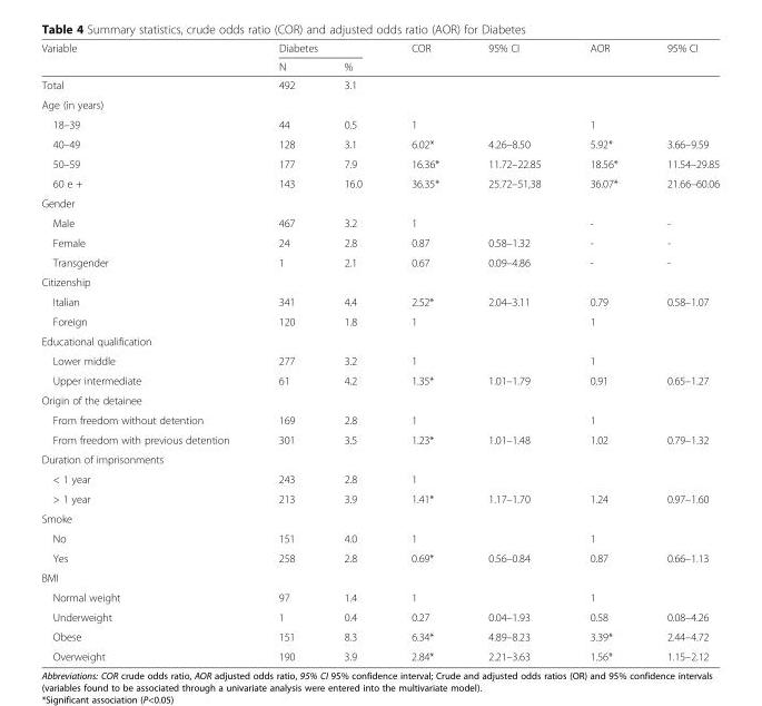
<table><thead><tr><td rowspan="2">Variable</td><td colspan="2">Diabetes</td><td rowspan="2">COR</td><td rowspan="2">95% CI</td><td rowspan="2">AOR</td><td rowspan="2">95% CI</td></tr><tr><td>N</td><td>%</td></tr></thead><tbody><tr><td>Total</td><td>492</td><td>3.1</td><td></td><td></td><td></td><td></td></tr><tr><td colspan="7">Age (in years)</td></tr><tr><td>18–39</td><td>44</td><td>0.5</td><td>1</td><td></td><td>1</td><td></td></tr><tr><td>40–49</td><td>128</td><td>3.1</td><td>6.02*</td><td>4.26–8.50</td><td>5.92*</td><td>3.66–9.59</td></tr><tr><td>50–59</td><td>177</td><td>7.9</td><td>16.36*</td><td>11.72–22.85</td><td>18.56*</td><td>11.54–29.85</td></tr><tr><td>60 e +</td><td>143</td><td>16.0</td><td>36.35*</td><td>25.72–51,38</td><td>36.07*</td><td>21.66–60.06</td></tr><tr><td colspan="7">Gender</td></tr><tr><td>Male</td><td>467</td><td>3.2</td><td>1</td><td></td><td>-</td><td>-</td></tr><tr><td>Female</td><td>24</td><td>2.8</td><td>0.87</td><td>0.58–1.32</td><td>-</td><td>-</td></tr><tr><td>Transgender</td><td>1</td><td>2.1</td><td>0.67</td><td>0.09–4.86</td><td>-</td><td>-</td></tr><tr><td colspan="7">Citizenship</td></tr><tr><td>Italian</td><td>341</td><td>4.4</td><td>2.52*</td><td>2.04–3.11</td><td>0.79</td><td>0.58–1.07</td></tr><tr><td>Foreign</td><td>120</td><td>1.8</td><td>1</td><td></td><td>1</td><td></td></tr><tr><td colspan="7">Educational qualification</td></tr><tr><td>Lower middle</td><td>277</td><td>3.2</td><td>1</td><td></td><td>1</td><td></td></tr><tr><td>Upper intermediate</td><td>61</td><td>4.2</td><td>1.35*</td><td>1.01–1.79</td><td>0.91</td><td>0.65–1.27</td></tr><tr><td colspan="7">Origin of the detainee</td></tr><tr><td>From freedom without detention</td><td>169</td><td>2.8</td><td>1</td><td></td><td>1</td><td></td></tr><tr><td>From freedom with previous detention</td><td>301</td><td>3.5</td><td>1.23*</td><td>1.01–1.48</td><td>1.02</td><td>0.79–1.32</td></tr><tr><td colspan="7">Duration of imprisonments</td></tr><tr><td>&lt; 1 year</td><td>243</td><td>2.8</td><td>1</td><td></td><td></td><td></td></tr><tr><td>&gt; 1 year</td><td>213</td><td>3.9</td><td>1.41*</td><td>1.17–1.70</td><td>1.24</td><td>0.97–1.60</td></tr><tr><td colspan="7">Smoke</td></tr><tr><td>No</td><td>151</td><td>4.0</td><td>1</td><td></td><td>1</td><td></td></tr><tr><td>Yes</td><td>258</td><td>2.8</td><td>0.69*</td><td>0.56–0.84</td><td>0.87</td><td>0.66–1.13</td></tr><tr><td colspan="7">BMI</td></tr><tr><td>Normal weight</td><td>97</td><td>1.4</td><td>1</td><td></td><td>1</td><td></td></tr><tr><td>Underweight</td><td>1</td><td>0.4</td><td>0.27</td><td>0.04–1.93</td><td>0.58</td><td>0.08–4.26</td></tr><tr><td>Obese</td><td>151</td><td>8.3</td><td>6.34*</td><td>4.89–8.23</td><td>3.39*</td><td>2.44–4.72</td></tr><tr><td>Overweight</td><td>190</td><td>3.9</td><td>2.84*</td><td>2.21–3.63</td><td>1.56*</td><td>1.15–2.12</td></tr></tbody></table>